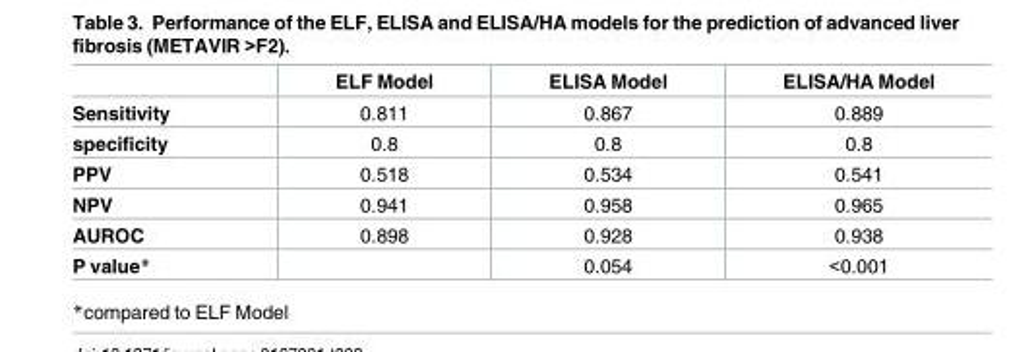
<table><thead><tr><td></td><td>ELF Model</td><td>ELISA Model</td><td>ELISA/HA Model</td></tr></thead><tbody><tr><td>Sensitivity</td><td>0.811</td><td>0.867</td><td>0.889</td></tr><tr><td>specificity</td><td>0.8</td><td>0.8</td><td>0.8</td></tr><tr><td>PPV</td><td>0.518</td><td>0.534</td><td>0.541</td></tr><tr><td>NPV</td><td>0.941</td><td>0.958</td><td>0.965</td></tr><tr><td>AUROC</td><td>0.898</td><td>0.928</td><td>0.938</td></tr><tr><td>P value*</td><td></td><td>0.054</td><td>&lt;0.001</td></tr></tbody></table>